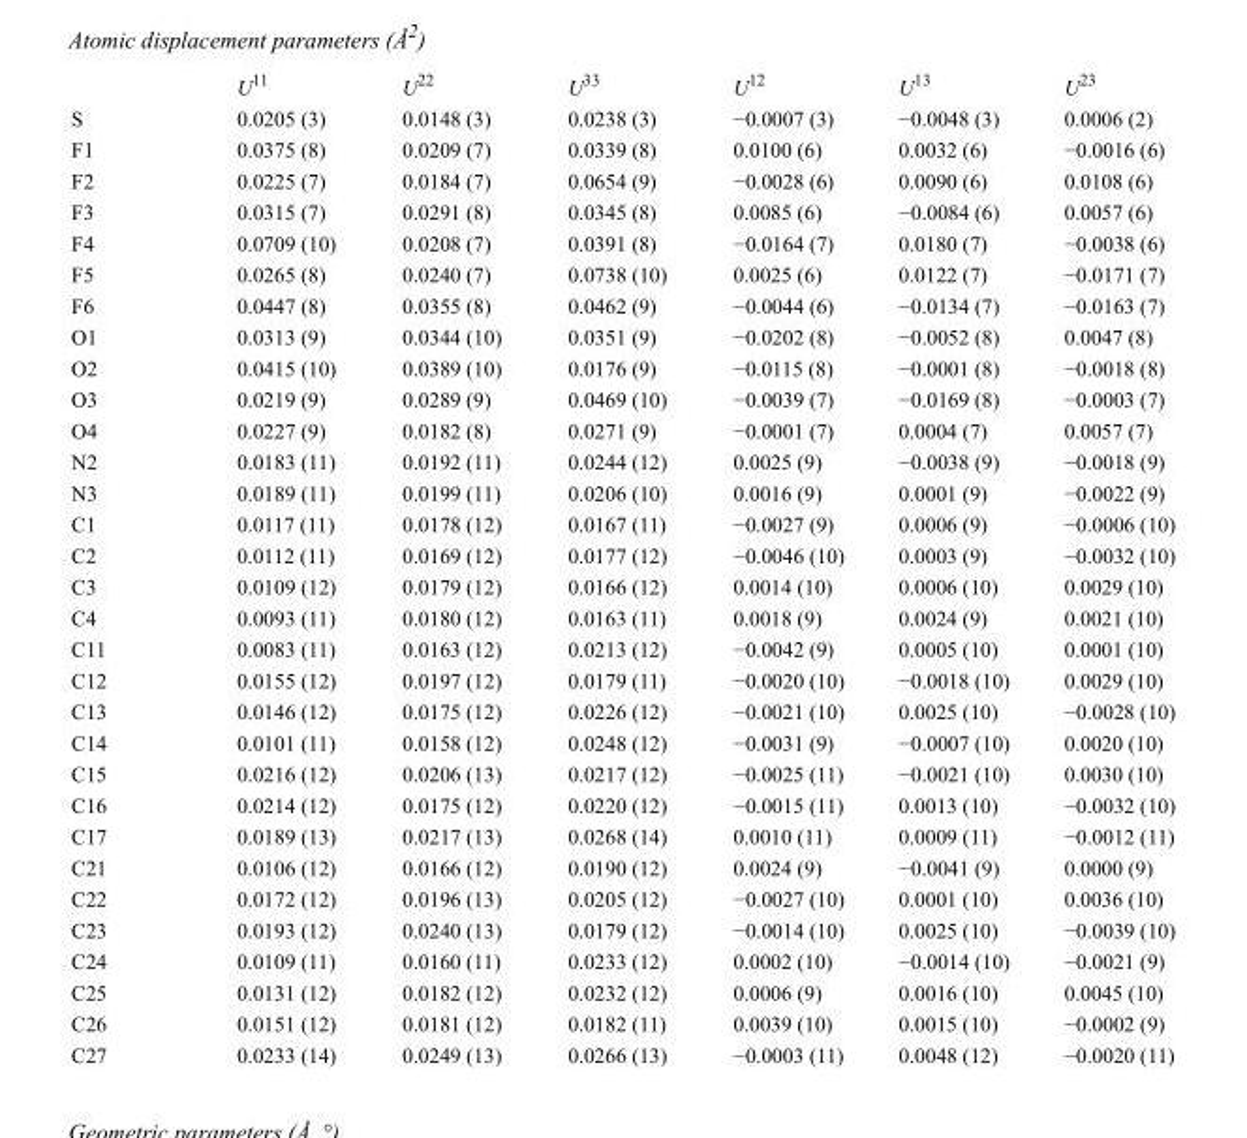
<table><thead><tr><td></td><td>U<sup>11</sup></td><td>U<sup>22</sup></td><td>U<sup>33</sup></td><td>U<sup>12</sup></td><td>U<sup>13</sup></td><td>U<sup>23</sup></td></tr></thead><tbody><tr><td>S</td><td>0.0205 (3)</td><td>0.0148 (3)</td><td>0.0238 (3)</td><td>−0.0007 (3)</td><td>−0.0048 (3)</td><td>0.0006 (2)</td></tr><tr><td>F1</td><td>0.0375 (8)</td><td>0.0209 (7)</td><td>0.0339 (8)</td><td>0.0100 (6)</td><td>0.0032 (6)</td><td>−0.0016 (6)</td></tr><tr><td>F2</td><td>0.0225 (7)</td><td>0.0184 (7)</td><td>0.0654 (9)</td><td>−0.0028 (6)</td><td>0.0090 (6)</td><td>0.0108 (6)</td></tr><tr><td>F3</td><td>0.0315 (7)</td><td>0.0291 (8)</td><td>0.0345 (8)</td><td>0.0085 (6)</td><td>−0.0084 (6)</td><td>0.0057 (6)</td></tr><tr><td>F4</td><td>0.0709 (10)</td><td>0.0208 (7)</td><td>0.0391 (8)</td><td>−0.0164 (7)</td><td>0.0180 (7)</td><td>−0.0038 (6)</td></tr><tr><td>F5</td><td>0.0265 (8)</td><td>0.0240 (7)</td><td>0.0738 (10)</td><td>0.0025 (6)</td><td>0.0122 (7)</td><td>−0.0171 (7)</td></tr><tr><td>F6</td><td>0.0447 (8)</td><td>0.0355 (8)</td><td>0.0462 (9)</td><td>−0.0044 (6)</td><td>−0.0134 (7)</td><td>−0.0163 (7)</td></tr><tr><td>O1</td><td>0.0313 (9)</td><td>0.0344 (10)</td><td>0.0351 (9)</td><td>−0.0202 (8)</td><td>−0.0052 (8)</td><td>0.0047 (8)</td></tr><tr><td>O2</td><td>0.0415 (10)</td><td>0.0389 (10)</td><td>0.0176 (9)</td><td>−0.0115 (8)</td><td>−0.0001 (8)</td><td>−0.0018 (8)</td></tr><tr><td>O3</td><td>0.0219 (9)</td><td>0.0289 (9)</td><td>0.0469 (10)</td><td>−0.0039 (7)</td><td>−0.0169 (8)</td><td>−0.0003 (7)</td></tr><tr><td>O4</td><td>0.0227 (9)</td><td>0.0182 (8)</td><td>0.0271 (9)</td><td>−0.0001 (7)</td><td>0.0004 (7)</td><td>0.0057 (7)</td></tr><tr><td>N2</td><td>0.0183 (11)</td><td>0.0192 (11)</td><td>0.0244 (12)</td><td>0.0025 (9)</td><td>−0.0038 (9)</td><td>−0.0018 (9)</td></tr><tr><td>N3</td><td>0.0189 (11)</td><td>0.0199 (11)</td><td>0.0206 (10)</td><td>0.0016 (9)</td><td>0.0001 (9)</td><td>−0.0022 (9)</td></tr><tr><td>C1</td><td>0.0117 (11)</td><td>0.0178 (12)</td><td>0.0167 (11)</td><td>−0.0027 (9)</td><td>0.0006 (9)</td><td>−0.0006 (10)</td></tr><tr><td>C2</td><td>0.0112 (11)</td><td>0.0169 (12)</td><td>0.0177 (12)</td><td>−0.0046 (10)</td><td>0.0003 (9)</td><td>−0.0032 (10)</td></tr><tr><td>C3</td><td>0.0109 (12)</td><td>0.0179 (12)</td><td>0.0166 (12)</td><td>0.0014 (10)</td><td>0.0006 (10)</td><td>0.0029 (10)</td></tr><tr><td>C4</td><td>0.0093 (11)</td><td>0.0180 (12)</td><td>0.0163 (11)</td><td>0.0018 (9)</td><td>0.0024 (9)</td><td>0.0021 (10)</td></tr><tr><td>C11</td><td>0.0083 (11)</td><td>0.0163 (12)</td><td>0.0213 (12)</td><td>−0.0042 (9)</td><td>0.0005 (10)</td><td>0.0001 (10)</td></tr><tr><td>C12</td><td>0.0155 (12)</td><td>0.0197 (12)</td><td>0.0179 (11)</td><td>−0.0020 (10)</td><td>−0.0018 (10)</td><td>0.0029 (10)</td></tr><tr><td>C13</td><td>0.0146 (12)</td><td>0.0175 (12)</td><td>0.0226 (12)</td><td>−0.0021 (10)</td><td>0.0025 (10)</td><td>−0.0028 (10)</td></tr><tr><td>C14</td><td>0.0101 (11)</td><td>0.0158 (12)</td><td>0.0248 (12)</td><td>−0.0031 (9)</td><td>−0.0007 (10)</td><td>0.0020 (10)</td></tr><tr><td>C15</td><td>0.0216 (12)</td><td>0.0206 (13)</td><td>0.0217 (12)</td><td>−0.0025 (11)</td><td>−0.0021 (10)</td><td>0.0030 (10)</td></tr><tr><td>C16</td><td>0.0214 (12)</td><td>0.0175 (12)</td><td>0.0220 (12)</td><td>−0.0015 (11)</td><td>0.0013 (10)</td><td>−0.0032 (10)</td></tr><tr><td>C17</td><td>0.0189 (13)</td><td>0.0217 (13)</td><td>0.0268 (14)</td><td>0.0010 (11)</td><td>0.0009 (11)</td><td>−0.0012 (11)</td></tr><tr><td>C21</td><td>0.0106 (12)</td><td>0.0166 (12)</td><td>0.0190 (12)</td><td>0.0024 (9)</td><td>−0.0041 (9)</td><td>0.0000 (9)</td></tr><tr><td>C22</td><td>0.0172 (12)</td><td>0.0196 (13)</td><td>0.0205 (12)</td><td>−0.0027 (10)</td><td>0.0001 (10)</td><td>0.0036 (10)</td></tr><tr><td>C23</td><td>0.0193 (12)</td><td>0.0240 (13)</td><td>0.0179 (12)</td><td>−0.0014 (10)</td><td>0.0025 (10)</td><td>−0.0039 (10)</td></tr><tr><td>C24</td><td>0.0109 (11)</td><td>0.0160 (11)</td><td>0.0233 (12)</td><td>0.0002 (10)</td><td>−0.0014 (10)</td><td>−0.0021 (9)</td></tr><tr><td>C25</td><td>0.0131 (12)</td><td>0.0182 (12)</td><td>0.0232 (12)</td><td>0.0006 (9)</td><td>0.0016 (10)</td><td>0.0045 (10)</td></tr><tr><td>C26</td><td>0.0151 (12)</td><td>0.0181 (12)</td><td>0.0182 (11)</td><td>0.0039 (10)</td><td>0.0015 (10)</td><td>−0.0002 (9)</td></tr><tr><td>C27</td><td>0.0233 (14)</td><td>0.0249 (13)</td><td>0.0266 (13)</td><td>−0.0003 (11)</td><td>0.0048 (12)</td><td>−0.0020 (11)</td></tr></tbody></table>